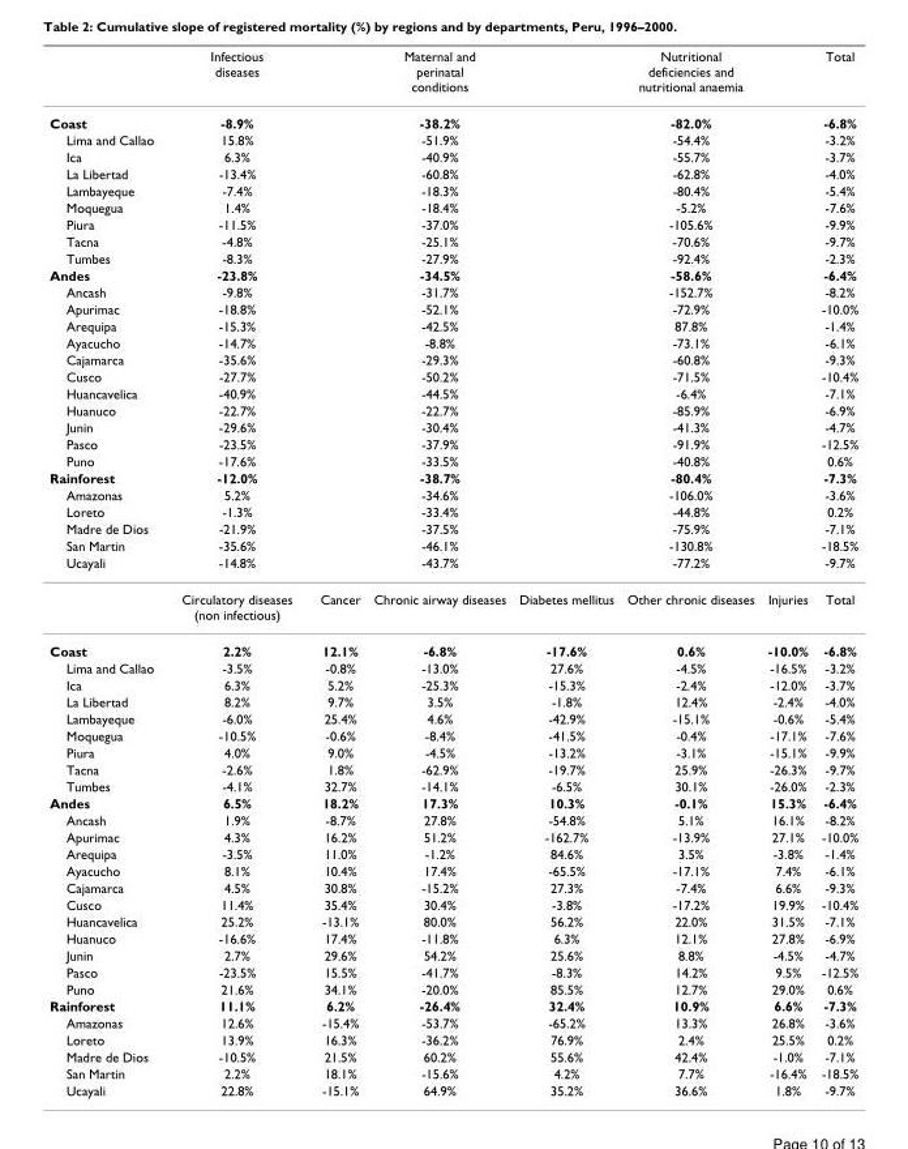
<table><thead><tr><td></td><td>Infectious diseases</td><td></td><td>Maternal and perinatal conditions</td><td></td><td>Nutritional deficiencies and nutritional anaemia</td><td></td><td>Total</td></tr></thead><tbody><tr><td>Coast</td><td>-8.9%</td><td></td><td>-38.2%</td><td></td><td>-82.0%</td><td></td><td>-6.8%</td></tr><tr><td>Lima and Callao</td><td>15.8%</td><td></td><td>-51.9%</td><td></td><td>-54.4%</td><td></td><td>-3.2%</td></tr><tr><td>Ica</td><td>6.3%</td><td></td><td>-40.9%</td><td></td><td>-55.7%</td><td></td><td>-3.7%</td></tr><tr><td>La Libertad</td><td>-13.4%</td><td></td><td>-60.8%</td><td></td><td>-62.8%</td><td></td><td>-4.0%</td></tr><tr><td>Lambayeque</td><td>-7.4%</td><td></td><td>-18.3%</td><td></td><td>-80.4%</td><td></td><td>-5.4%</td></tr><tr><td>Moquegua</td><td>1.4%</td><td></td><td>-18.4%</td><td></td><td>-5.2%</td><td></td><td>-7.6%</td></tr><tr><td>Piura</td><td>-11.5%</td><td></td><td>-37.0%</td><td></td><td>-105.6%</td><td></td><td>-9.9%</td></tr><tr><td>Tacna</td><td>-4.8%</td><td></td><td>-25.1%</td><td></td><td>-70.6%</td><td></td><td>-9.7%</td></tr><tr><td>Tumbes</td><td>-8.3%</td><td></td><td>-27.9%</td><td></td><td>-92.4%</td><td></td><td>-2.3%</td></tr><tr><td>Andes</td><td>-23.8%</td><td></td><td>-34.5%</td><td></td><td>-58.6%</td><td></td><td>-6.4%</td></tr><tr><td>Ancash</td><td>-9.8%</td><td></td><td>-31.7%</td><td></td><td>-152.7%</td><td></td><td>-8.2%</td></tr><tr><td>Apurimac</td><td>-18.8%</td><td></td><td>-52.1%</td><td></td><td>-72.9%</td><td></td><td>-10.0%</td></tr><tr><td>Arequipa</td><td>-15.3%</td><td></td><td>-42.5%</td><td></td><td>87.8%</td><td></td><td>-1.4%</td></tr><tr><td>Ayacucho</td><td>-14.7%</td><td></td><td>-8.8%</td><td></td><td>-73.1%</td><td></td><td>-6.1%</td></tr><tr><td>Cajamarca</td><td>-35.6%</td><td></td><td>-29.3%</td><td></td><td>-60.8%</td><td></td><td>-9.3%</td></tr><tr><td>Cusco</td><td>-27.7%</td><td></td><td>-50.2%</td><td></td><td>-71.5%</td><td></td><td>-10.4%</td></tr><tr><td>Huancavelica</td><td>-40.9%</td><td></td><td>-44.5%</td><td></td><td>-6.4%</td><td></td><td>-7.1%</td></tr><tr><td>Huanuco</td><td>-22.7%</td><td></td><td>-22.7%</td><td></td><td>-85.9%</td><td></td><td>-6.9%</td></tr><tr><td>Junin</td><td>-29.6%</td><td></td><td>-30.4%</td><td></td><td>-41.3%</td><td></td><td>-4.7%</td></tr><tr><td>Pasco</td><td>-23.5%</td><td></td><td>-37.9%</td><td></td><td>-91.9%</td><td></td><td>-12.5%</td></tr><tr><td>Puno</td><td>-17.6%</td><td></td><td>-33.5%</td><td></td><td>-40.8%</td><td></td><td>0.6%</td></tr><tr><td>Rainforest</td><td>-12.0%</td><td></td><td>-38.7%</td><td></td><td>-80.4%</td><td></td><td>-7.3%</td></tr><tr><td>Amazonas</td><td>5.2%</td><td></td><td>-34.6%</td><td></td><td>-106.0%</td><td></td><td>-3.6%</td></tr><tr><td>Loreto</td><td>-1.3%</td><td></td><td>-33.4%</td><td></td><td>-44.8%</td><td></td><td>0.2%</td></tr><tr><td>Madre de Dios</td><td>-21.9%</td><td></td><td>-37.5%</td><td></td><td>-75.9%</td><td></td><td>-7.1%</td></tr><tr><td>San Martin</td><td>-35.6%</td><td></td><td>-46.1%</td><td></td><td>-130.8%</td><td></td><td>-18.5%</td></tr><tr><td rowspan="2">Ucayali</td><td>-14.8%</td><td></td><td>-43.7%</td><td></td><td>-77.2%</td><td></td><td>-9.7%</td></tr><tr><td>Circulatory diseases (non infectious)</td><td>Cancer</td><td>Chronic airway diseases</td><td>Diabetes mellitus</td><td>Other chronic diseases</td><td>Injuries</td><td>Total</td></tr><tr><td>Coast</td><td>2.2%</td><td>12.1%</td><td>-6.8%</td><td>-17.6%</td><td>0.6%</td><td>-10.0%</td><td>-6.8%</td></tr><tr><td>Lima and Callao</td><td>-3.5%</td><td>-0.8%</td><td>-13.0%</td><td>27.6%</td><td>-4.5%</td><td>-16.5%</td><td>-3.2%</td></tr><tr><td>Ica</td><td>6.3%</td><td>5.2%</td><td>-25.3%</td><td>-15.3%</td><td>-2.4%</td><td>-12.0%</td><td>-3.7%</td></tr><tr><td>La Libertad</td><td>8.2%</td><td>9.7%</td><td>3.5%</td><td>-1.8%</td><td>12.4%</td><td>-2.4%</td><td>-4.0%</td></tr><tr><td>Lambayeque</td><td>-6.0%</td><td>25.4%</td><td>4.6%</td><td>-42.9%</td><td>-15.1%</td><td>-0.6%</td><td>-5.4%</td></tr><tr><td>Moquegua</td><td>-10.5%</td><td>-0.6%</td><td>-8.4%</td><td>-41.5%</td><td>-0.4%</td><td>-17.1%</td><td>-7.6%</td></tr><tr><td>Piura</td><td>4.0%</td><td>9.0%</td><td>-4.5%</td><td>-13.2%</td><td>-3.1%</td><td>-15.1%</td><td>-9.9%</td></tr><tr><td>Tacna</td><td>-2.6%</td><td>1.8%</td><td>-62.9%</td><td>-19.7%</td><td>25.9%</td><td>-26.3%</td><td>-9.7%</td></tr><tr><td>Tumbes</td><td>-4.1%</td><td>32.7%</td><td>-14.1%</td><td>-6.5%</td><td>30.1%</td><td>-26.0%</td><td>-2.3%</td></tr><tr><td>Andes</td><td>6.5%</td><td>18.2%</td><td>17.3%</td><td>10.3%</td><td>-0.1%</td><td>15.3%</td><td>-6.4%</td></tr><tr><td>Ancash</td><td>1.9%</td><td>-8.7%</td><td>27.8%</td><td>-54.8%</td><td>5.1%</td><td>16.1%</td><td>-8.2%</td></tr><tr><td>Apurimac</td><td>4.3%</td><td>16.2%</td><td>51.2%</td><td>-162.7%</td><td>-13.9%</td><td>27.1%</td><td>-10.0%</td></tr><tr><td>Arequipa</td><td>-3.5%</td><td>11.0%</td><td>-1.2%</td><td>84.6%</td><td>3.5%</td><td>-3.8%</td><td>-1.4%</td></tr><tr><td>Ayacucho</td><td>8.1%</td><td>10.4%</td><td>17.4%</td><td>-65.5%</td><td>-17.1%</td><td>7.4%</td><td>-6.1%</td></tr><tr><td>Cajamarca</td><td>4.5%</td><td>30.8%</td><td>-15.2%</td><td>27.3%</td><td>-7.4%</td><td>6.6%</td><td>-9.3%</td></tr><tr><td>Cusco</td><td>11.4%</td><td>35.4%</td><td>30.4%</td><td>-3.8%</td><td>-17.2%</td><td>19.9%</td><td>-10.4%</td></tr><tr><td>Huancavelica</td><td>25.2%</td><td>-13.1%</td><td>80.0%</td><td>56.2%</td><td>22.0%</td><td>31.5%</td><td>-7.1%</td></tr><tr><td>Huanuco</td><td>-16.6%</td><td>17.4%</td><td>-11.8%</td><td>6.3%</td><td>12.1%</td><td>27.8%</td><td>-6.9%</td></tr><tr><td>Junin</td><td>2.7%</td><td>29.6%</td><td>54.2%</td><td>25.6%</td><td>8.8%</td><td>-4.5%</td><td>-4.7%</td></tr><tr><td>Pasco</td><td>-23.5%</td><td>15.5%</td><td>-41.7%</td><td>-8.3%</td><td>14.2%</td><td>9.5%</td><td>-12.5%</td></tr><tr><td>Puno</td><td>21.6%</td><td>34.1%</td><td>-20.0%</td><td>85.5%</td><td>12.7%</td><td>29.0%</td><td>0.6%</td></tr><tr><td>Rainforest</td><td>11.1%</td><td>6.2%</td><td>-26.4%</td><td>32.4%</td><td>10.9%</td><td>6.6%</td><td>-7.3%</td></tr><tr><td>Amazonas</td><td>12.6%</td><td>-15.4%</td><td>-53.7%</td><td>-65.2%</td><td>13.3%</td><td>26.8%</td><td>-3.6%</td></tr><tr><td>Loreto</td><td>13.9%</td><td>16.3%</td><td>-36.2%</td><td>76.9%</td><td>2.4%</td><td>25.5%</td><td>0.2%</td></tr><tr><td>Madre de Dios</td><td>-10.5%</td><td>21.5%</td><td>60.2%</td><td>55.6%</td><td>42.4%</td><td>-1.0%</td><td>-7.1%</td></tr><tr><td>San Martin</td><td>2.2%</td><td>18.1%</td><td>-15.6%</td><td>4.2%</td><td>7.7%</td><td>-16.4%</td><td>-18.5%</td></tr><tr><td>Ucayali</td><td>22.8%</td><td>-15.1%</td><td>64.9%</td><td>35.2%</td><td>36.6%</td><td>1.8%</td><td>-9.7%</td></tr></tbody></table>